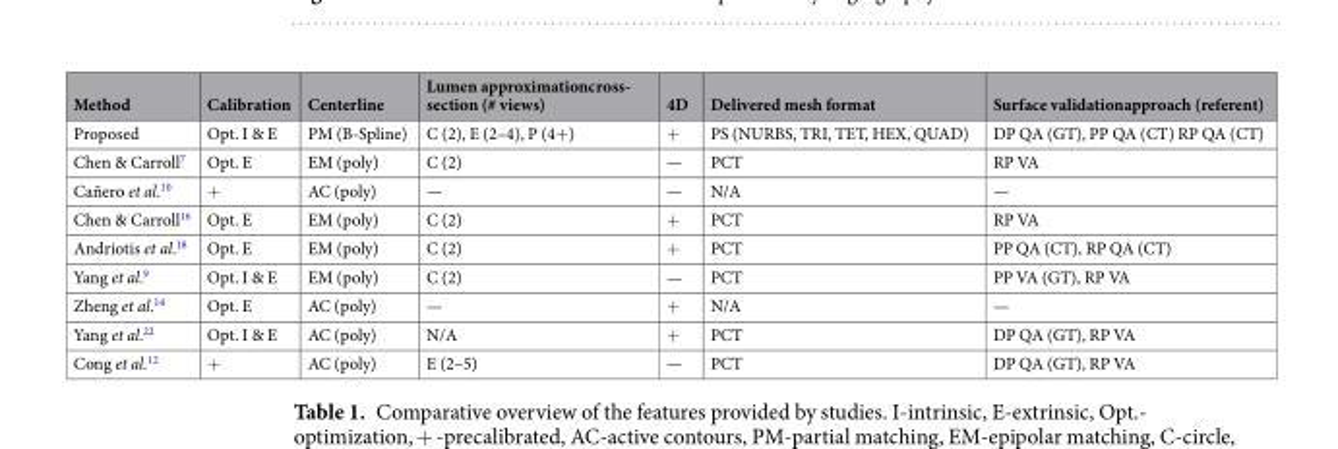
<table><thead><tr><td>Method</td><td>Calibration</td><td>Centerline</td><td>Lumen approximationcross- section (# views)</td><td>4D</td><td>Delivered mesh format</td><td>Surface validationapproach (referent)</td></tr></thead><tbody><tr><td>Proposed</td><td>Opt. I &amp; E</td><td>PM (B-Spline)</td><td>C (2), E (2–4), P (4+)</td><td>+</td><td>PS (NURBS, TRI, TET, HEX, QUAD)</td><td>DP QA (GT), PP QA (CT) RP QA (CT)</td></tr><tr><td>Chen &amp; Carroll<sup>7</sup></td><td>Opt. E</td><td>EM (poly)</td><td>C (2)</td><td>—</td><td>PCT</td><td>RP VA</td></tr><tr><td>Cañero et al.<sup>10</sup></td><td>+</td><td>AC (poly)</td><td>—</td><td>—</td><td>N/A</td><td>—</td></tr><tr><td>Chen &amp; Carroll<sup>16</sup></td><td>Opt. E</td><td>EM (poly)</td><td>C (2)</td><td>+</td><td>PCT</td><td>RP VA</td></tr><tr><td>Andriotis et al.<sup>18</sup></td><td>Opt. E</td><td>EM (poly)</td><td>C (2)</td><td>+</td><td>PCT</td><td>PP QA (CT), RP QA (CT)</td></tr><tr><td>Yang et al.<sup>9</sup></td><td>Opt. I &amp; E</td><td>EM (poly)</td><td>C (2)</td><td>—</td><td>PCT</td><td>PP VA (GT), RP VA</td></tr><tr><td>Zheng et al.<sup>14</sup></td><td>Opt. E</td><td>AC (poly)</td><td>—</td><td>+</td><td>N/A</td><td>—</td></tr><tr><td>Yang et al.<sup>22</sup></td><td>Opt. I &amp; E</td><td>AC (poly)</td><td>N/A</td><td>+</td><td>PCT</td><td>DP QA (GT), RP VA</td></tr><tr><td>Cong et al.<sup>12</sup></td><td>+</td><td>AC (poly)</td><td>E (2–5)</td><td>—</td><td>PCT</td><td>DP QA (GT), RP VA</td></tr></tbody></table>